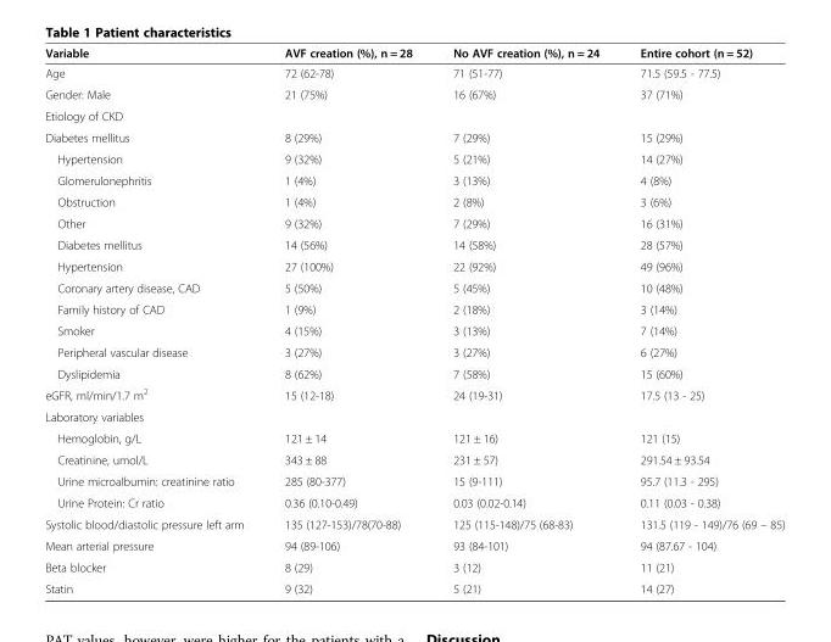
<table><thead><tr><td>Variable</td><td>AVF creation (%), n = 28</td><td>No AVF creation (%), n = 24</td><td>Entire cohort (n = 52)</td></tr></thead><tbody><tr><td>Age</td><td>72 (62-78)</td><td>71 (51-77)</td><td>71.5 (59.5 - 77.5)</td></tr><tr><td>Gender: Male</td><td>21 (75%)</td><td>16 (67%)</td><td>37 (71%)</td></tr><tr><td colspan="4">Etiology of CKD</td></tr><tr><td>Diabetes mellitus</td><td>8 (29%)</td><td>7 (29%)</td><td>15 (29%)</td></tr><tr><td>Hypertension</td><td>9 (32%)</td><td>5 (21%)</td><td>14 (27%)</td></tr><tr><td>Glomerulonephritis</td><td>1 (4%)</td><td>3 (13%)</td><td>4 (8%)</td></tr><tr><td>Obstruction</td><td>1 (4%)</td><td>2 (8%)</td><td>3 (6%)</td></tr><tr><td>Other</td><td>9 (32%)</td><td>7 (29%)</td><td>16 (31%)</td></tr><tr><td>Diabetes mellitus</td><td>14 (56%)</td><td>14 (58%)</td><td>28 (57%)</td></tr><tr><td>Hypertension</td><td>27 (100%)</td><td>22 (92%)</td><td>49 (96%)</td></tr><tr><td>Coronary artery disease, CAD</td><td>5 (50%)</td><td>5 (45%)</td><td>10 (48%)</td></tr><tr><td>Family history of CAD</td><td>1 (9%)</td><td>2 (18%)</td><td>3 (14%)</td></tr><tr><td>Smoker</td><td>4 (15%)</td><td>3 (13%)</td><td>7 (14%)</td></tr><tr><td>Peripheral vascular disease</td><td>3 (27%)</td><td>3 (27%)</td><td>6 (27%)</td></tr><tr><td>Dyslipidemia</td><td>8 (62%)</td><td>7 (58%)</td><td>15 (60%)</td></tr><tr><td>eGFR, ml/min/1.7 m<sup>2</sup></td><td>15 (12-18)</td><td>24 (19-31)</td><td>17.5 (13 - 25)</td></tr><tr><td colspan="4">Laboratory variables</td></tr><tr><td>Hemoglobin, g/L</td><td>121 ± 14</td><td>121 ± 16)</td><td>121 (15)</td></tr><tr><td>Creatinine, umol/L</td><td>343 ± 88</td><td>231 ± 57)</td><td>291.54 ± 93.54</td></tr><tr><td>Urine microalbumin: creatinine ratio</td><td>285 (80-377)</td><td>15 (9-111)</td><td>95.7 (11.3 - 295)</td></tr><tr><td>Urine Protein: Cr ratio</td><td>0.36 (0.10-0.49)</td><td>0.03 (0.02-0.14)</td><td>0.11 (0.03 - 0.38)</td></tr><tr><td>Systolic blood/diastolic pressure left arm</td><td>135 (127-153)/78(70-88)</td><td>125 (115-148)/75 (68-83)</td><td>131.5 (119 - 149)/76 (69 – 85)</td></tr><tr><td>Mean arterial pressure</td><td>94 (89-106)</td><td>93 (84-101)</td><td>94 (87.67 - 104)</td></tr><tr><td>Beta blocker</td><td>8 (29)</td><td>3 (12)</td><td>11 (21)</td></tr><tr><td>Statin</td><td>9 (32)</td><td>5 (21)</td><td>14 (27)</td></tr></tbody></table>